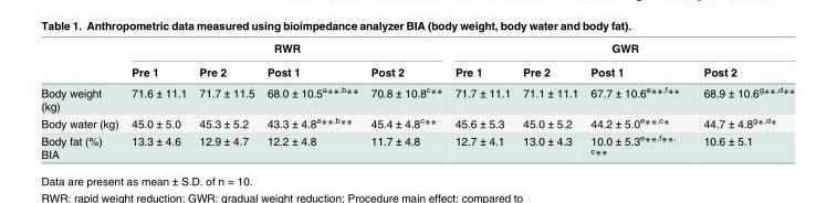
<table><thead><tr><td rowspan="2"></td><td colspan="4">RWR</td><td colspan="4">GWR</td></tr><tr><td>Pre 1</td><td>Pre 2</td><td>Post 1</td><td>Post 2</td><td>Pre 1</td><td>Pre 2</td><td>Post 1</td><td>Post 2</td></tr></thead><tbody><tr><td>Body weight (kg)</td><td>71.6 ± 11.1</td><td>71.7 ± 11.5</td><td>68.0 ± 10.5<sup>a</sup>**<sup>,b</sup>**</td><td>70.8 ± 10.8<sup>c</sup>**</td><td>71.7 ± 11.1</td><td>71.1 ± 11.1</td><td>67.7 ± 10.6<sup>e</sup>**<sup>,f</sup>**</td><td>68.9 ± 10.6<sup>g</sup>**<sup>,d</sup>**</td></tr><tr><td>Body water (kg)</td><td>45.0 ± 5.0</td><td>45.3 ± 5.2</td><td>43.3 ± 4.8<sup>a</sup>**<sup>,b</sup>**</td><td>45.4 ± 4.8<sup>c</sup>**</td><td>45.6 ± 5.3</td><td>45.0 ± 5.2</td><td>44.2 ± 5.0<sup>e</sup>**<sup>,c</sup>*</td><td>44.7 ± 4.8<sup>g</sup>*<sup>,d</sup>*</td></tr><tr><td>Body fat (%) BIA</td><td>13.3 ± 4.6</td><td>12.9 ± 4.7</td><td>12.2 ± 4.8</td><td>11.7 ± 4.8</td><td>12.7 ± 4.1</td><td>13.0 ± 4.3</td><td>10.0 ± 5.3<sup>e</sup>**<sup>,f</sup>**<sup>, c</sup>**</td><td>10.6 ± 5.1</td></tr></tbody></table>